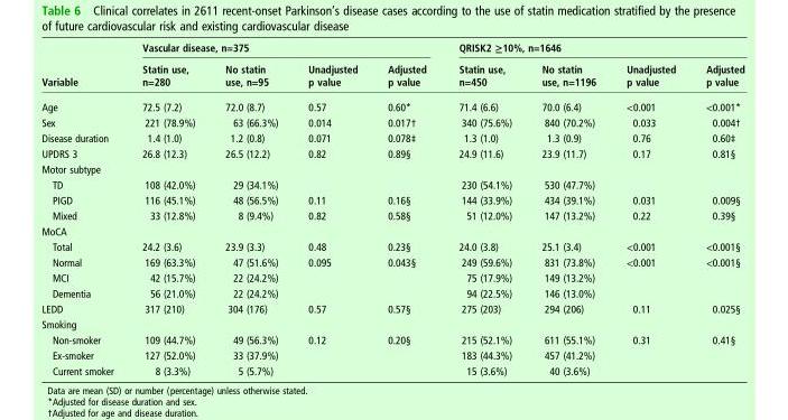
<table><thead><tr><td rowspan="2">Variable</td><td colspan="4">Vascular disease, n=375</td><td colspan="4">QRISK2 ≥10%, n=1646</td></tr><tr><td>Statin use, n=280</td><td>No statin use, n=95</td><td>Unadjusted p value</td><td>Adjusted p value</td><td>Statin use, n=450</td><td>No statin use, n=1196</td><td>Unadjusted p value</td><td>Adjusted p value</td></tr></thead><tbody><tr><td>Age</td><td>72.5 (7.2)</td><td>72.0 (8.7)</td><td>0.57</td><td>0.60*</td><td>71.4 (6.6)</td><td>70.0 (6.4)</td><td>&lt;0.001</td><td>&lt;0.001*</td></tr><tr><td>Sex</td><td>221 (78.9%)</td><td>63 (66.3%)</td><td>0.014</td><td>0.017†</td><td>340 (75.6%)</td><td>840 (70.2%)</td><td>0.033</td><td>0.004†</td></tr><tr><td>Disease duration</td><td>1.4 (1.0)</td><td>1.2 (0.8)</td><td>0.071</td><td>0.078‡</td><td>1.3 (1.0)</td><td>1.3 (0.9)</td><td>0.76</td><td>0.60‡</td></tr><tr><td>UPDRS 3</td><td>26.8 (12.3)</td><td>26.5 (12.2)</td><td>0.82</td><td>0.89§</td><td>24.9 (11.6)</td><td>23.9 (11.7)</td><td>0.17</td><td>0.81§</td></tr><tr><td colspan="9">Motor subtype</td></tr><tr><td>TD</td><td>108 (42.0%)</td><td>29 (34.1%)</td><td></td><td></td><td>230 (54.1%)</td><td>530 (47.7%)</td><td></td><td></td></tr><tr><td>PIGD</td><td>116 (45.1%)</td><td>48 (56.5%)</td><td>0.11</td><td>0.16§</td><td>144 (33.9%)</td><td>434 (39.1%)</td><td>0.031</td><td>0.009§</td></tr><tr><td>Mixed</td><td>33 (12.8%)</td><td>8 (9.4%)</td><td>0.82</td><td>0.58§</td><td>51 (12.0%)</td><td>147 (13.2%)</td><td>0.22</td><td>0.39§</td></tr><tr><td colspan="9">MoCA</td></tr><tr><td>Total</td><td>24.2 (3.6)</td><td>23.9 (3.3)</td><td>0.48</td><td>0.23§</td><td>24.0 (3.8)</td><td>25.1 (3.4)</td><td>&lt;0.001</td><td>&lt;0.001§</td></tr><tr><td>Normal</td><td>169 (63.3%)</td><td>47 (51.6%)</td><td>0.095</td><td>0.043§</td><td>249 (59.6%)</td><td>831 (73.8%)</td><td>&lt;0.001</td><td>&lt;0.001§</td></tr><tr><td>MCI</td><td>42 (15.7%)</td><td>22 (24.2%)</td><td></td><td></td><td>75 (17.9%)</td><td>149 (13.2%)</td><td></td><td></td></tr><tr><td>Dementia</td><td>56 (21.0%)</td><td>22 (24.2%)</td><td></td><td></td><td>94 (22.5%)</td><td>146 (13.0%)</td><td></td><td></td></tr><tr><td>LEDD</td><td>317 (210)</td><td>304 (176)</td><td>0.57</td><td>0.57§</td><td>275 (203)</td><td>294 (206)</td><td>0.11</td><td>0.025§</td></tr><tr><td colspan="9">Smoking</td></tr><tr><td>Non-smoker</td><td>109 (44.7%)</td><td>49 (56.3%)</td><td>0.12</td><td>0.20§</td><td>215 (52.1%)</td><td>611 (55.1%)</td><td>0.31</td><td>0.41§</td></tr><tr><td>Ex-smoker</td><td>127 (52.0%)</td><td>33 (37.9%)</td><td></td><td></td><td>183 (44.3%)</td><td>457 (41.2%)</td><td></td><td></td></tr><tr><td>Current smoker</td><td>8 (3.3%)</td><td>5 (5.7%)</td><td></td><td></td><td>15 (3.6%)</td><td>40 (3.6%)</td><td></td><td></td></tr></tbody></table>